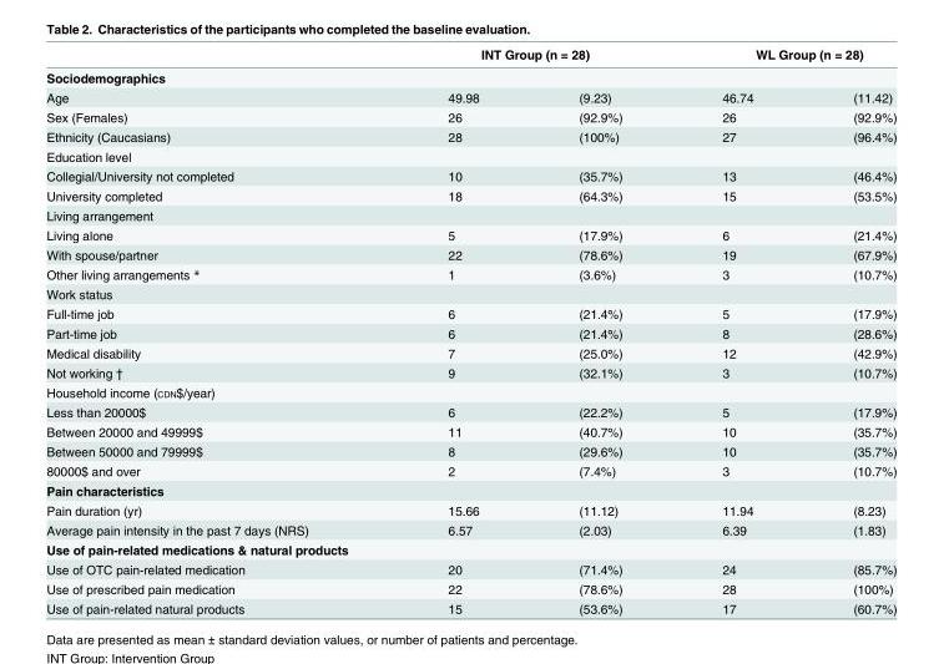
<table><thead><tr><td rowspan="2">Sociodemographics</td><td colspan="2">INT Group (n = 28)</td><td colspan="2">WL Group (n = 28)</td></tr><tr><td></td><td></td><td></td><td></td></tr></thead><tbody><tr><td>Age</td><td>49.98</td><td>(9.23)</td><td>46.74</td><td>(11.42)</td></tr><tr><td>Sex (Females)</td><td>26</td><td>(92.9%)</td><td>26</td><td>(92.9%)</td></tr><tr><td>Ethnicity (Caucasians)</td><td>28</td><td>(100%)</td><td>27</td><td>(96.4%)</td></tr><tr><td colspan="5">Education level</td></tr><tr><td>Collegial/University not completed</td><td>10</td><td>(35.7%)</td><td>13</td><td>(46.4%)</td></tr><tr><td>University completed</td><td>18</td><td>(64.3%)</td><td>15</td><td>(53.5%)</td></tr><tr><td colspan="5">Living arrangement</td></tr><tr><td>Living alone</td><td>5</td><td>(17.9%)</td><td>6</td><td>(21.4%)</td></tr><tr><td>With spouse/partner</td><td>22</td><td>(78.6%)</td><td>19</td><td>(67.9%)</td></tr><tr><td>Other living arrangements *</td><td>1</td><td>(3.6%)</td><td>3</td><td>(10.7%)</td></tr><tr><td colspan="5">Work status</td></tr><tr><td>Full-time job</td><td>6</td><td>(21.4%)</td><td>5</td><td>(17.9%)</td></tr><tr><td>Part-time job</td><td>6</td><td>(21.4%)</td><td>8</td><td>(28.6%)</td></tr><tr><td>Medical disability</td><td>7</td><td>(25.0%)</td><td>12</td><td>(42.9%)</td></tr><tr><td>Not working †</td><td>9</td><td>(32.1%)</td><td>3</td><td>(10.7%)</td></tr><tr><td colspan="5">Household income (CDN$/year)</td></tr><tr><td>Less than 20000$</td><td>6</td><td>(22.2%)</td><td>5</td><td>(17.9%)</td></tr><tr><td>Between 20000 and 49999$</td><td>11</td><td>(40.7%)</td><td>10</td><td>(35.7%)</td></tr><tr><td>Between 50000 and 79999$</td><td>8</td><td>(29.6%)</td><td>10</td><td>(35.7%)</td></tr><tr><td>80000$ and over</td><td>2</td><td>(7.4%)</td><td>3</td><td>(10.7%)</td></tr><tr><td colspan="5">Pain characteristics</td></tr><tr><td>Pain duration (yr)</td><td>15.66</td><td>(11.12)</td><td>11.94</td><td>(8.23)</td></tr><tr><td>Average pain intensity in the past 7 days (NRS)</td><td>6.57</td><td>(2.03)</td><td>6.39</td><td>(1.83)</td></tr><tr><td colspan="5">Use of pain-related medications &amp; natural products</td></tr><tr><td>Use of OTC pain-related medication</td><td>20</td><td>(71.4%)</td><td>24</td><td>(85.7%)</td></tr><tr><td>Use of prescribed pain medication</td><td>22</td><td>(78.6%)</td><td>28</td><td>(100%)</td></tr><tr><td>Use of pain-related natural products</td><td>15</td><td>(53.6%)</td><td>17</td><td>(60.7%)</td></tr></tbody></table>